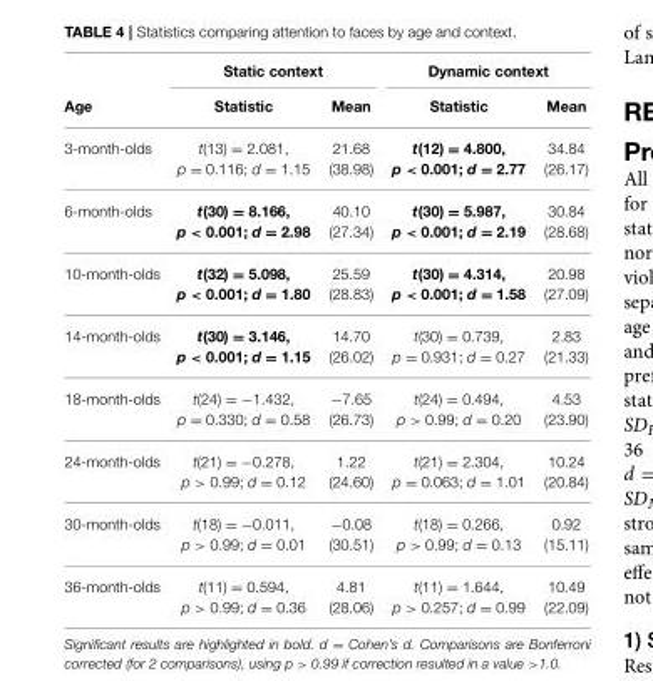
<table><thead><tr><td rowspan="2">Age</td><td colspan="2">Static context</td><td colspan="2">Dynamic context</td></tr><tr><td>Statistic</td><td>Mean</td><td>Statistic</td><td>Mean</td></tr></thead><tbody><tr><td>3-month-olds</td><td>t(13) = 2.081, p = 0.116; d = 1.15</td><td>21.68 (38.98)</td><td>t(12) = 4.800, p &lt; 0.001; d = 2.77</td><td>34.84 (26.17)</td></tr><tr><td>6-month-olds</td><td>t(30) = 8.166, p &lt; 0.001; d = 2.98</td><td>40.10 (27.34)</td><td>t(30) = 5.987, p &lt; 0.001; d = 2.19</td><td>30.84 (28.68)</td></tr><tr><td>10-month-olds</td><td>t(32) = 5.098, p &lt; 0.001; d = 1.80</td><td>25.59 (28.83)</td><td>t(30) = 4.314, p &lt; 0.001; d = 1.58</td><td>20.98 (27.09)</td></tr><tr><td>14-month-olds</td><td>t(30) = 3.146, p &lt; 0.001; d = 1.15</td><td>14.70 (26.02)</td><td>t(30) = 0.739, p = 0.931; d = 0.27</td><td>2.83 (21.33)</td></tr><tr><td>18-month-olds</td><td>t(24) = −1.432, p = 0.330; d = 0.58</td><td>−7.65 (26.73)</td><td>t(24) = 0.494, p &gt; 0.99; d = 0.20</td><td>4.53 (23.90)</td></tr><tr><td>24-month-olds</td><td>t(21) = −0.278, p &gt; 0.99; d = 0.12</td><td>1.22 (24.60)</td><td>t(21) = 2.304, p = 0.063; d = 1.01</td><td>10.24 (20.84)</td></tr><tr><td>30-month-olds</td><td>t(18) = −0.011, p &gt; 0.99; d = 0.01</td><td>−0.08 (30.51)</td><td>t(18) = 0.266, p &gt; 0.99; d = 0.13</td><td>0.92 (15.11)</td></tr><tr><td>36-month-olds</td><td>t(11) = 0.594, p &gt; 0.99; d = 0.36</td><td>4.81 (28.06)</td><td>t(11) = 1.644, p &gt; 0.257; d = 0.99</td><td>10.49 (22.09)</td></tr></tbody></table>